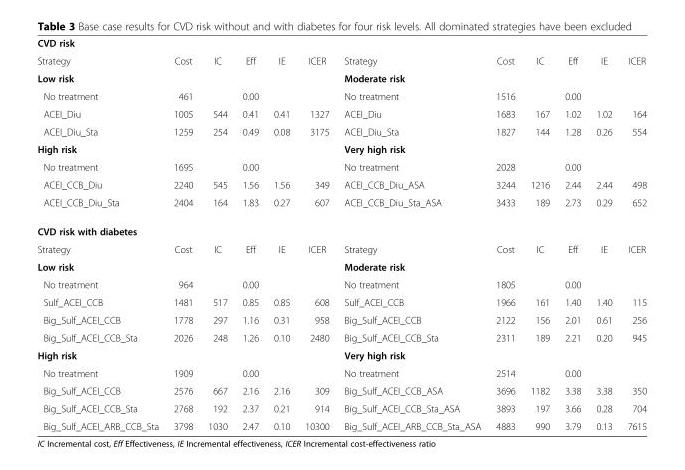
<table><tbody><tr><td colspan="12">CVD risk</td></tr><tr><td>Strategy</td><td>Cost</td><td>IC</td><td>Eff</td><td>IE</td><td>ICER</td><td>Strategy</td><td>Cost</td><td>IC</td><td>Eff</td><td>IE</td><td>ICER</td></tr><tr><td>Low risk</td><td></td><td></td><td></td><td></td><td></td><td>Moderate risk</td><td></td><td></td><td></td><td></td><td></td></tr><tr><td>No treatment</td><td>461</td><td></td><td>0.00</td><td></td><td></td><td>No treatment</td><td>1516</td><td></td><td>0.00</td><td></td><td></td></tr><tr><td>ACEI_Diu</td><td>1005</td><td>544</td><td>0.41</td><td>0.41</td><td>1327</td><td>ACEI_Diu</td><td>1683</td><td>167</td><td>1.02</td><td>1.02</td><td>164</td></tr><tr><td>ACEI_Diu_Sta</td><td>1259</td><td>254</td><td>0.49</td><td>0.08</td><td>3175</td><td>ACEI_Diu_Sta</td><td>1827</td><td>144</td><td>1.28</td><td>0.26</td><td>554</td></tr><tr><td>High risk</td><td></td><td></td><td></td><td></td><td></td><td>Very high risk</td><td></td><td></td><td></td><td></td><td></td></tr><tr><td>No treatment</td><td>1695</td><td></td><td>0.00</td><td></td><td></td><td>No treatment</td><td>2028</td><td></td><td>0.00</td><td></td><td></td></tr><tr><td>ACEI_CCB_Diu</td><td>2240</td><td>545</td><td>1.56</td><td>1.56</td><td>349</td><td>ACEI_CCB_Diu_ASA</td><td>3244</td><td>1216</td><td>2.44</td><td>2.44</td><td>498</td></tr><tr><td>ACEI_CCB_Diu_Sta</td><td>2404</td><td>164</td><td>1.83</td><td>0.27</td><td>607</td><td>ACEI_CCB_Diu_Sta_ASA</td><td>3433</td><td>189</td><td>2.73</td><td>0.29</td><td>652</td></tr><tr><td colspan="12">CVD risk with diabetes</td></tr><tr><td>Strategy</td><td>Cost</td><td>IC</td><td>Eff</td><td>IE</td><td>ICER</td><td>Strategy</td><td>Cost</td><td>IC</td><td>Eff</td><td>IE</td><td>ICER</td></tr><tr><td>Low risk</td><td></td><td></td><td></td><td></td><td></td><td>Moderate risk</td><td></td><td></td><td></td><td></td><td></td></tr><tr><td>No treatment</td><td>964</td><td></td><td>0.00</td><td></td><td></td><td>No treatment</td><td>1805</td><td></td><td>0.00</td><td></td><td></td></tr><tr><td>Sulf_ACEI_CCB</td><td>1481</td><td>517</td><td>0.85</td><td>0.85</td><td>608</td><td>Sulf_ACEI_CCB</td><td>1966</td><td>161</td><td>1.40</td><td>1.40</td><td>115</td></tr><tr><td>Big_Sulf_ACEI_CCB</td><td>1778</td><td>297</td><td>1.16</td><td>0.31</td><td>958</td><td>Big_Sulf_ACEI_CCB</td><td>2122</td><td>156</td><td>2.01</td><td>0.61</td><td>256</td></tr><tr><td>Big_Sulf_ACEI_CCB_Sta</td><td>2026</td><td>248</td><td>1.26</td><td>0.10</td><td>2480</td><td>Big_Sulf_ACEI_CCB_Sta</td><td>2311</td><td>189</td><td>2.21</td><td>0.20</td><td>945</td></tr><tr><td>High risk</td><td></td><td></td><td></td><td></td><td></td><td>Very high risk</td><td></td><td></td><td></td><td></td><td></td></tr><tr><td>No treatment</td><td>1909</td><td></td><td>0.00</td><td></td><td></td><td>No treatment</td><td>2514</td><td></td><td>0.00</td><td></td><td></td></tr><tr><td>Big_Sulf_ACEI_CCB</td><td>2576</td><td>667</td><td>2.16</td><td>2.16</td><td>309</td><td>Big_Sulf_ACEI_CCB_ASA</td><td>3696</td><td>1182</td><td>3.38</td><td>3.38</td><td>350</td></tr><tr><td>Big_Sulf_ACEI_CCB_Sta</td><td>2768</td><td>192</td><td>2.37</td><td>0.21</td><td>914</td><td>Big_Sulf_ACEI_CCB_Sta_ASA</td><td>3893</td><td>197</td><td>3.66</td><td>0.28</td><td>704</td></tr><tr><td>Big_Sulf_ACEI_ARB_CCB_Sta</td><td>3798</td><td>1030</td><td>2.47</td><td>0.10</td><td>10300</td><td>Big_Sulf_ACEI_ARB_CCB_Sta_ASA</td><td>4883</td><td>990</td><td>3.79</td><td>0.13</td><td>7615</td></tr></tbody></table>